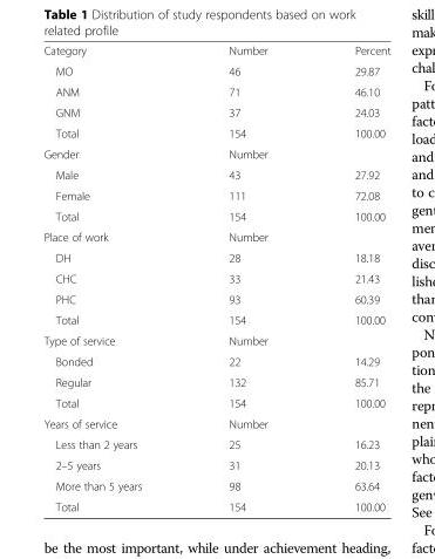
<table><tbody><tr><td>Category</td><td>Number</td><td>Percent</td></tr><tr><td>MO</td><td>46</td><td>29.87</td></tr><tr><td>ANM</td><td>71</td><td>46.10</td></tr><tr><td>GNM</td><td>37</td><td>24.03</td></tr><tr><td>Total</td><td>154</td><td>100.00</td></tr><tr><td>Gender</td><td>Number</td><td></td></tr><tr><td>Male</td><td>43</td><td>27.92</td></tr><tr><td>Female</td><td>111</td><td>72.08</td></tr><tr><td>Total</td><td>154</td><td>100.00</td></tr><tr><td>Place of work</td><td>Number</td><td></td></tr><tr><td>DH</td><td>28</td><td>18.18</td></tr><tr><td>CHC</td><td>33</td><td>21.43</td></tr><tr><td>PHC</td><td>93</td><td>60.39</td></tr><tr><td>Total</td><td>154</td><td>100.00</td></tr><tr><td>Type of service</td><td>Number</td><td></td></tr><tr><td>Bonded</td><td>22</td><td>14.29</td></tr><tr><td>Regular</td><td>132</td><td>85.71</td></tr><tr><td>Total</td><td>154</td><td>100.00</td></tr><tr><td>Years of service</td><td>Number</td><td></td></tr><tr><td>Less than 2 years</td><td>25</td><td>16.23</td></tr><tr><td>2–5 years</td><td>31</td><td>20.13</td></tr><tr><td>More than 5 years</td><td>98</td><td>63.64</td></tr><tr><td>Total</td><td>154</td><td>100.00</td></tr></tbody></table>